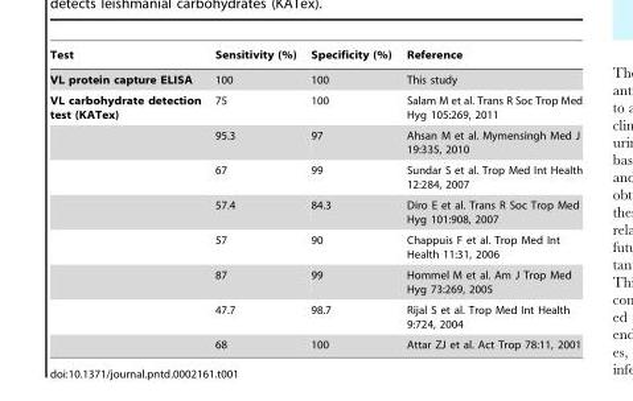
<table><thead><tr><td>Test</td><td>Sensitivity (%)</td><td>Specificity (%)</td><td>Reference</td></tr></thead><tbody><tr><td>VL protein capture ELISA</td><td>100</td><td>100</td><td>This study</td></tr><tr><td rowspan="8">VL carbohydrate detection test (KATex)</td><td>75</td><td>100</td><td>Salam M et al. Trans R Soc Trop Med Hyg 105:269, 2011</td></tr><tr><td>95.3</td><td>97</td><td>Ahsan M et al. Mymensingh Med J 19:335, 2010</td></tr><tr><td>67</td><td>99</td><td>Sundar S et al. Trop Med Int Health 12:284, 2007</td></tr><tr><td>57.4</td><td>84.3</td><td>Diro E et al. Trans R Soc Trop Med Hyg 101:908, 2007</td></tr><tr><td>57</td><td>90</td><td>Chappuis F et al. Trop Med Int Health 11:31, 2006</td></tr><tr><td>87</td><td>99</td><td>Hommel M et al. Am J Trop Med Hyg 73:269, 2005</td></tr><tr><td>47.7</td><td>98.7</td><td>Rijal S et al. Trop Med Int Health 9:724, 2004</td></tr><tr><td>68</td><td>100</td><td>Attar ZJ et al. Act Trop 78:11, 2001</td></tr></tbody></table>